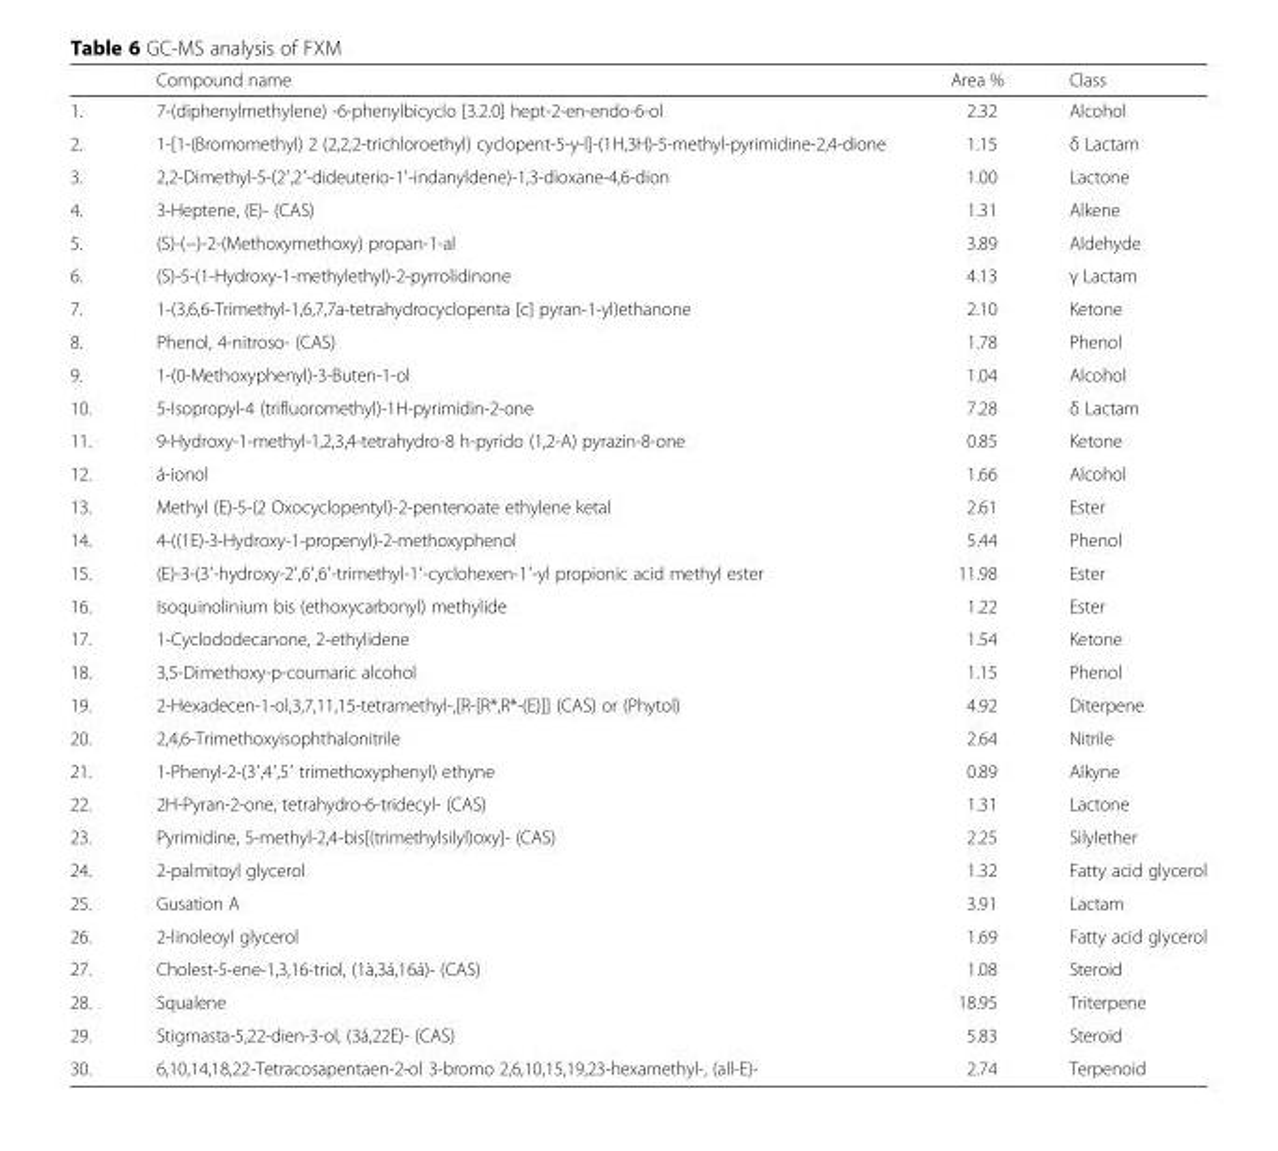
<table><thead><tr><td></td><td>Compound name</td><td>Area %</td><td>Class</td></tr></thead><tbody><tr><td>1.</td><td>7-(diphenylmethylene) -6-phenylbicyclo [3.2.0] hept-2-en-endo-6-ol</td><td>2.32</td><td>Alcohol</td></tr><tr><td>2.</td><td>1-[1-(Bromomethyl) 2 (2,2,2-trichloroethyl) cyclopent-5-y-l]-(1H,3H)-5-methyl-pyrimidine-2,4-dione</td><td>1.15</td><td>δ Lactam</td></tr><tr><td>3.</td><td>2,2-Dimethyl-5-(2′,2′-dideuterio-1′-indanyldene)-1,3-dioxane-4,6-dion</td><td>1.00</td><td>Lactone</td></tr><tr><td>4.</td><td>3-Heptene, (E)- (CAS)</td><td>1.31</td><td>Alkene</td></tr><tr><td>5.</td><td>(S)-(−)-2-(Methoxymethoxy) propan-1-al</td><td>3.89</td><td>Aldehyde</td></tr><tr><td>6.</td><td>(S)-5-(1-Hydroxy-1-methylethyl)-2-pyrrolidinone</td><td>4.13</td><td>γ Lactam</td></tr><tr><td>7.</td><td>1-(3,6,6-Trimethyl-1,6,7,7a-tetrahydrocyclopenta [c] pyran-1-yl)ethanone</td><td>2.10</td><td>Ketone</td></tr><tr><td>8.</td><td>Phenol, 4-nitroso- (CAS)</td><td>1.78</td><td>Phenol</td></tr><tr><td>9.</td><td>1-(0-Methoxyphenyl)-3-Buten-1-ol</td><td>1.04</td><td>Alcohol</td></tr><tr><td>10.</td><td>5-Isopropyl-4 (trifluoromethyl)-1H-pyrimidin-2-one</td><td>7.28</td><td>δ Lactam</td></tr><tr><td>11.</td><td>9-Hydroxy-1-methyl-1,2,3,4-tetrahydro-8 h-pyrido (1,2-A) pyrazin-8-one</td><td>0.85</td><td>Ketone</td></tr><tr><td>12.</td><td>á-ionol</td><td>1.66</td><td>Alcohol</td></tr><tr><td>13.</td><td>Methyl (E)-5-(2 Oxocyclopentyl)-2-pentenoate ethylene ketal</td><td>2.61</td><td>Ester</td></tr><tr><td>14.</td><td>4-((1E)-3-Hydroxy-1-propenyl)-2-methoxyphenol</td><td>5.44</td><td>Phenol</td></tr><tr><td>15.</td><td>(E)-3-(3′-hydroxy-2′,6′,6′-trimethyl-1′-cyclohexen-1′-yl propionic acid methyl ester</td><td>11.98</td><td>Ester</td></tr><tr><td>16.</td><td>Isoquinolinium bis (ethoxycarbonyl) methylide</td><td>1.22</td><td>Ester</td></tr><tr><td>17.</td><td>1-Cyclododecanone, 2-ethylidene</td><td>1.54</td><td>Ketone</td></tr><tr><td>18.</td><td>3,5-Dimethoxy-p-coumaric alcohol</td><td>1.15</td><td>Phenol</td></tr><tr><td>19.</td><td>2-Hexadecen-1-ol,3,7,11,15-tetramethyl-,[R-[R*,R*-(E)]] (CAS) or (Phytol)</td><td>4.92</td><td>Diterpene</td></tr><tr><td>20.</td><td>2,4,6-Trimethoxyisophthalonitrile</td><td>2.64</td><td>Nitrile</td></tr><tr><td>21.</td><td>1-Phenyl-2-(3′,4′,5′ trimethoxyphenyl) ethyne</td><td>0.89</td><td>Alkyne</td></tr><tr><td>22.</td><td>2H-Pyran-2-one, tetrahydro-6-tridecyl- (CAS)</td><td>1.31</td><td>Lactone</td></tr><tr><td>23.</td><td>Pyrimidine, 5-methyl-2,4-bis[(trimethylsilyl)oxy]- (CAS)</td><td>2.25</td><td>Silylether</td></tr><tr><td>24.</td><td>2-palmitoyl glycerol</td><td>1.32</td><td>Fatty acid glycerol</td></tr><tr><td>25.</td><td>Gusation A</td><td>3.91</td><td>Lactam</td></tr><tr><td>26.</td><td>2-linoleoyl glycerol</td><td>1.69</td><td>Fatty acid glycerol</td></tr><tr><td>27.</td><td>Cholest-5-ene-1,3,16-triol, (1à,3á,16á)- (CAS)</td><td>1.08</td><td>Steroid</td></tr><tr><td>28.</td><td>Squalene</td><td>18.95</td><td>Triterpene</td></tr><tr><td>29.</td><td>Stigmasta-5,22-dien-3-ol, (3á,22E)- (CAS)</td><td>5.83</td><td>Steroid</td></tr><tr><td>30.</td><td>6,10,14,18,22-Tetracosapentaen-2-ol 3-bromo 2,6,10,15,19,23-hexamethyl-, (all-E)-</td><td>2.74</td><td>Terpenoid</td></tr></tbody></table>